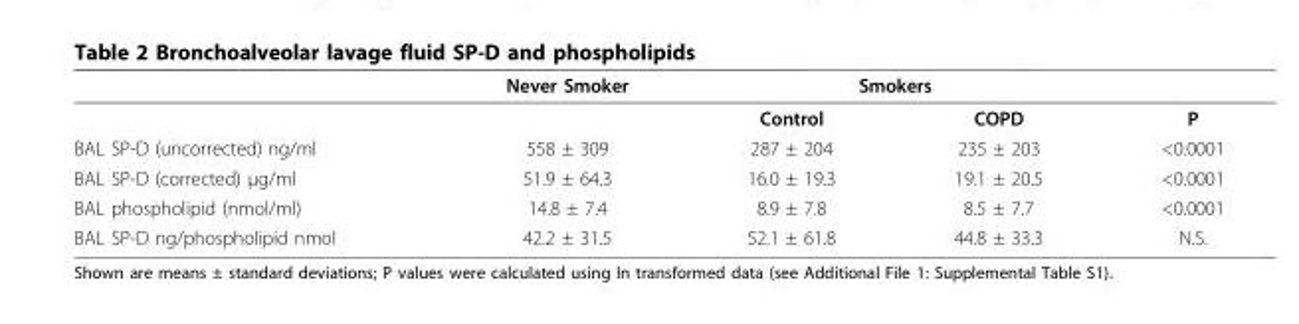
<table><thead><tr><td rowspan="2"></td><td rowspan="2">Never Smoker</td><td colspan="2">Smokers</td><td rowspan="2">P</td></tr><tr><td>Control</td><td>COPD</td></tr></thead><tbody><tr><td>BAL SP-D (uncorrected) ng/ml</td><td>558 ± 309</td><td>287 ± 204</td><td>235 ± 203</td><td>&lt;0.0001</td></tr><tr><td>BAL SP-D (corrected) μg/ml</td><td>51.9 ± 64.3</td><td>16.0 ± 19.3</td><td>19.1 ± 20.5</td><td>&lt;0.0001</td></tr><tr><td>BAL phospholipid (nmol/ml)</td><td>14.8 ± 7.4</td><td>8.9 ± 7.8</td><td>8.5 ± 7.7</td><td>&lt;0.0001</td></tr><tr><td>BAL SP-D ng/phospholipid nmol</td><td>42.2 ± 31.5</td><td>52.1 ± 61.8</td><td>44.8 ± 33.3</td><td>N.S.</td></tr></tbody></table>